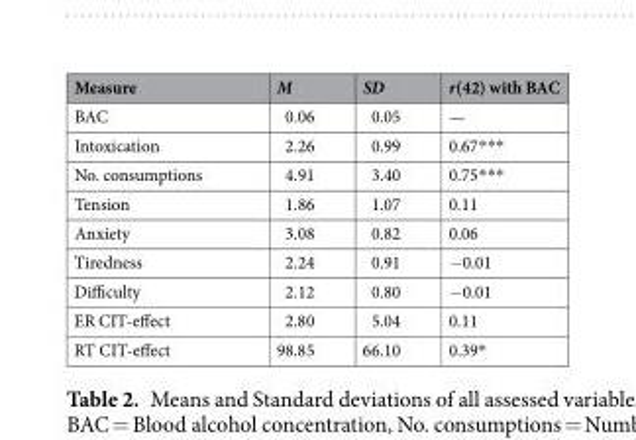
<table><thead><tr><td>Measure</td><td>M</td><td>SD</td><td>r(42) with BAC</td></tr></thead><tbody><tr><td>BAC</td><td>0.06</td><td>0.05</td><td>—</td></tr><tr><td>Intoxication</td><td>2.26</td><td>0.99</td><td>0.67***</td></tr><tr><td>No. consumptions</td><td>4.91</td><td>3.40</td><td>0.75***</td></tr><tr><td>Tension</td><td>1.86</td><td>1.07</td><td>0.11</td></tr><tr><td>Anxiety</td><td>3.08</td><td>0.82</td><td>0.06</td></tr><tr><td>Tiredness</td><td>2.24</td><td>0.91</td><td>−0.01</td></tr><tr><td>Difficulty</td><td>2.12</td><td>0.80</td><td>−0.01</td></tr><tr><td>ER CIT-effect</td><td>2.80</td><td>5.04</td><td>0.11</td></tr><tr><td>RT CIT-effect</td><td>98.85</td><td>66.10</td><td>0.39*</td></tr></tbody></table>